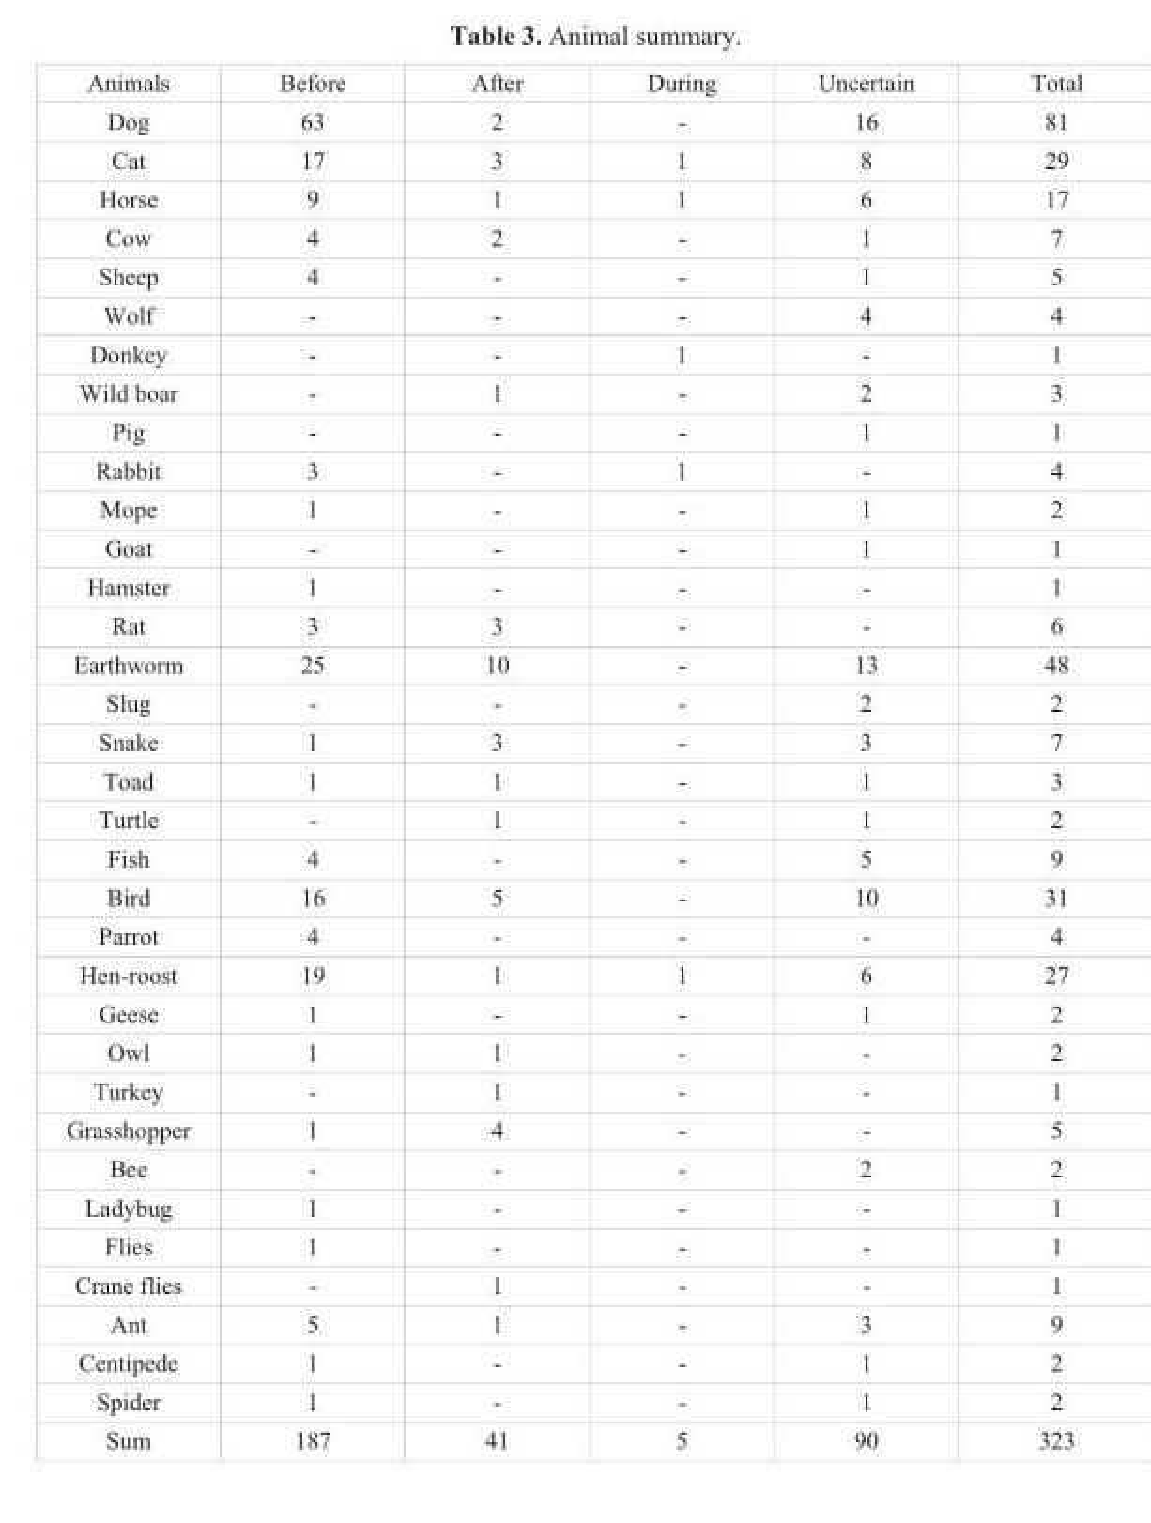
<table><tbody><tr><td>Animals</td><td>Before</td><td>After</td><td>During</td><td>Uncertain</td><td>Total</td></tr><tr><td>Dog</td><td>63</td><td>2</td><td>-</td><td>16</td><td>81</td></tr><tr><td>Cat</td><td>17</td><td>3</td><td>1</td><td>8</td><td>29</td></tr><tr><td>Horse</td><td>9</td><td>1</td><td>1</td><td>6</td><td>17</td></tr><tr><td>Cow</td><td>4</td><td>2</td><td>-</td><td>1</td><td>7</td></tr><tr><td>Sheep</td><td>4</td><td>-</td><td>-</td><td>1</td><td>5</td></tr><tr><td>Wolf</td><td>-</td><td>-</td><td>-</td><td>4</td><td>4</td></tr><tr><td>Donkey</td><td>-</td><td>-</td><td>1</td><td>-</td><td>1</td></tr><tr><td>Wild boar</td><td>-</td><td>1</td><td>-</td><td>2</td><td>3</td></tr><tr><td>Pig</td><td>-</td><td>-</td><td>-</td><td>1</td><td>1</td></tr><tr><td>Rabbit</td><td>3</td><td>-</td><td>1</td><td>-</td><td>4</td></tr><tr><td>Mope</td><td>1</td><td>-</td><td>-</td><td>1</td><td>2</td></tr><tr><td>Goat</td><td>-</td><td>-</td><td>-</td><td>1</td><td>1</td></tr><tr><td>Hamster</td><td>1</td><td>-</td><td>-</td><td>-</td><td>1</td></tr><tr><td>Rat</td><td>3</td><td>3</td><td>-</td><td>-</td><td>6</td></tr><tr><td>Earthworm</td><td>25</td><td>10</td><td>-</td><td>13</td><td>48</td></tr><tr><td>Slug</td><td>-</td><td>-</td><td>-</td><td>2</td><td>2</td></tr><tr><td>Snake</td><td>1</td><td>3</td><td>-</td><td>3</td><td>7</td></tr><tr><td>Toad</td><td>1</td><td>1</td><td>-</td><td>1</td><td>3</td></tr><tr><td>Turtle</td><td>-</td><td>1</td><td>-</td><td>1</td><td>2</td></tr><tr><td>Fish</td><td>4</td><td>-</td><td>-</td><td>5</td><td>9</td></tr><tr><td>Bird</td><td>16</td><td>5</td><td>-</td><td>10</td><td>31</td></tr><tr><td>Parrot</td><td>4</td><td>-</td><td>-</td><td>-</td><td>4</td></tr><tr><td>Hen-roost</td><td>19</td><td>1</td><td>1</td><td>6</td><td>27</td></tr><tr><td>Geese</td><td>1</td><td>-</td><td>-</td><td>1</td><td>2</td></tr><tr><td>Owl</td><td>1</td><td>1</td><td>-</td><td>-</td><td>2</td></tr><tr><td>Turkey</td><td>-</td><td>1</td><td>-</td><td>-</td><td>1</td></tr><tr><td>Grasshopper</td><td>1</td><td>4</td><td>-</td><td>-</td><td>5</td></tr><tr><td>Bee</td><td>-</td><td>-</td><td>-</td><td>2</td><td>2</td></tr><tr><td>Ladybug</td><td>1</td><td>-</td><td>-</td><td>-</td><td>1</td></tr><tr><td>Flies</td><td>1</td><td>-</td><td>-</td><td>-</td><td>1</td></tr><tr><td>Crane flies</td><td>-</td><td>1</td><td>-</td><td>-</td><td>1</td></tr><tr><td>Ant</td><td>5</td><td>1</td><td>-</td><td>3</td><td>9</td></tr><tr><td>Centipede</td><td>1</td><td>-</td><td>-</td><td>1</td><td>2</td></tr><tr><td>Spider</td><td>1</td><td>-</td><td>-</td><td>1</td><td>2</td></tr><tr><td>Sum</td><td>187</td><td>41</td><td>5</td><td>90</td><td>323</td></tr></tbody></table>